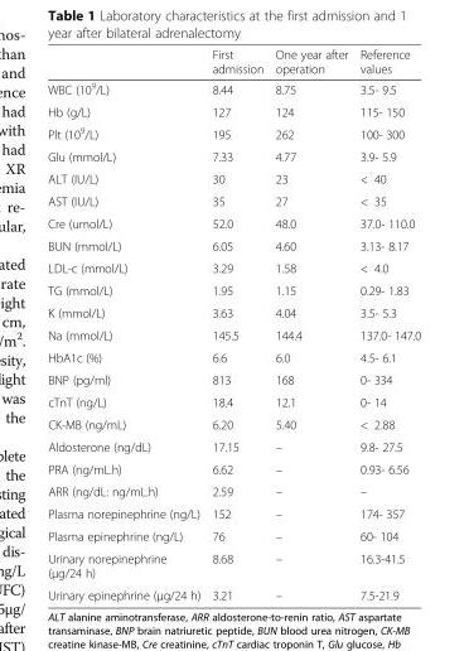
<table><thead><tr><td></td><td>First admission</td><td>One year after operation</td><td>Reference values</td></tr></thead><tbody><tr><td>WBC (10<sup>9</sup>/L)</td><td>8.44</td><td>8.75</td><td>3.5- 9.5</td></tr><tr><td>Hb (g/L)</td><td>127</td><td>124</td><td>115- 150</td></tr><tr><td>Plt (10<sup>9</sup>/L)</td><td>195</td><td>262</td><td>100- 300</td></tr><tr><td>Glu (mmol/L)</td><td>7.33</td><td>4.77</td><td>3.9- 5.9</td></tr><tr><td>ALT (IU/L)</td><td>30</td><td>23</td><td>&lt; 40</td></tr><tr><td>AST (IU/L)</td><td>35</td><td>27</td><td>&lt; 35</td></tr><tr><td>Cre (umol/L)</td><td>52.0</td><td>48.0</td><td>37.0- 110.0</td></tr><tr><td>BUN (mmol/L)</td><td>6.05</td><td>4.60</td><td>3.13- 8.17</td></tr><tr><td>LDL-c (mmol/L)</td><td>3.29</td><td>1.58</td><td>&lt; 4.0</td></tr><tr><td>TG (mmol/L)</td><td>1.95</td><td>1.15</td><td>0.29- 1.83</td></tr><tr><td>K (mmol/L)</td><td>3.63</td><td>4.04</td><td>3.5- 5.3</td></tr><tr><td>Na (mmol/L)</td><td>145.5</td><td>144.4</td><td>137.0- 147.0</td></tr><tr><td>HbA1c (%)</td><td>6.6</td><td>6.0</td><td>4.5- 6.1</td></tr><tr><td>BNP (pg/ml)</td><td>813</td><td>168</td><td>0- 334</td></tr><tr><td>cTnT (ng/L)</td><td>18.4</td><td>12.1</td><td>0- 14</td></tr><tr><td>CK-MB (ng/mL)</td><td>6.20</td><td>5.40</td><td>&lt; 2.88</td></tr><tr><td>Aldosterone (ng/dL)</td><td>17.15</td><td>–</td><td>9.8- 27.5</td></tr><tr><td>PRA (ng/mL.h)</td><td>6.62</td><td>–</td><td>0.93- 6.56</td></tr><tr><td>ARR (ng/dL: ng/mL.h)</td><td>2.59</td><td>–</td><td>–</td></tr><tr><td>Plasma norepinephrine (ng/L)</td><td>152</td><td>–</td><td>174- 357</td></tr><tr><td>Plasma epinephrine (ng/L)</td><td>76</td><td>–</td><td>60- 104</td></tr><tr><td>Urinary norepinephrine (μg/24 h)</td><td>8.68</td><td>–</td><td>16.3-41.5</td></tr><tr><td>Urinary epinephrine (μg/24 h)</td><td>3.21</td><td>–</td><td>7.5-21.9</td></tr></tbody></table>